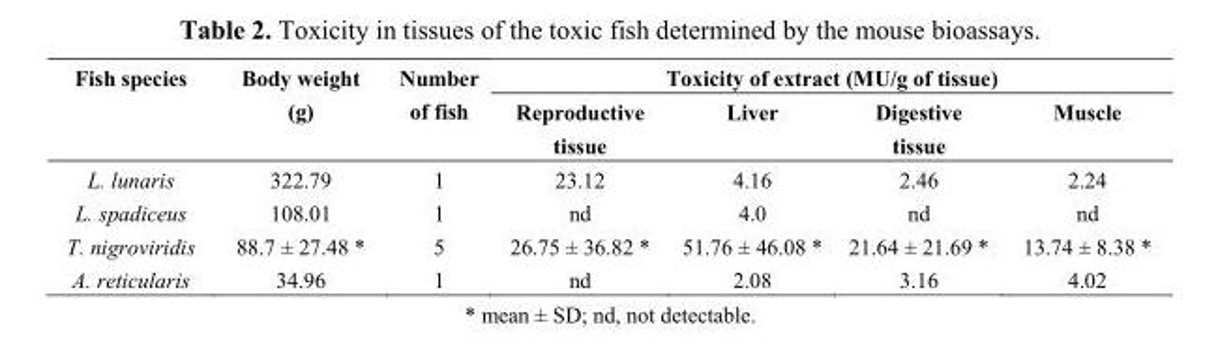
<table><thead><tr><td rowspan="2">Fish species</td><td rowspan="2">Body weight (g)</td><td rowspan="2">Number of fish</td><td colspan="4">Toxicity of extract (MU/g of tissue)</td></tr><tr><td>Reproductive tissue</td><td>Liver</td><td>Digestive tissue</td><td>Muscle</td></tr></thead><tbody><tr><td>L. lunaris</td><td>322.79</td><td>1</td><td>23.12</td><td>4.16</td><td>2.46</td><td>2.24</td></tr><tr><td>L. spadiceus</td><td>108.01</td><td>1</td><td>nd</td><td>4.0</td><td>nd</td><td>nd</td></tr><tr><td>T. nigroviridis</td><td>88.7 ± 27.48 *</td><td>5</td><td>26.75 ± 36.82 *</td><td>51.76 ± 46.08 *</td><td>21.64 ± 21.69 *</td><td>13.74 ± 8.38 *</td></tr><tr><td>A. reticularis</td><td>34.96</td><td>1</td><td>nd</td><td>2.08</td><td>3.16</td><td>4.02</td></tr></tbody></table>